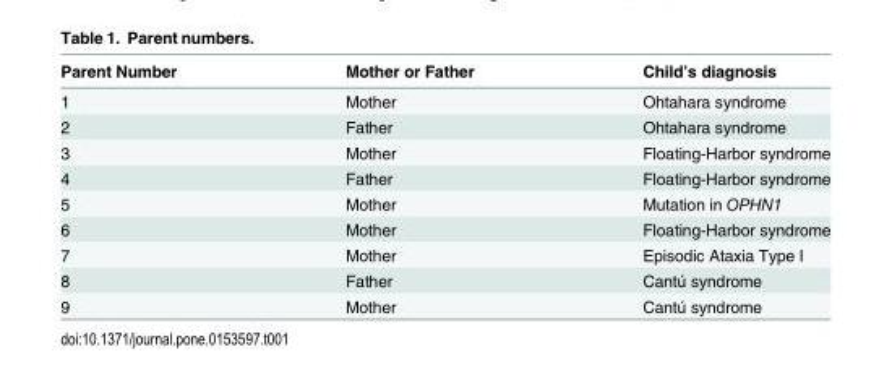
<table><thead><tr><td>Parent Number</td><td>Mother or Father</td><td>Child’s diagnosis</td></tr></thead><tbody><tr><td>1</td><td>Mother</td><td>Ohtahara syndrome</td></tr><tr><td>2</td><td>Father</td><td>Ohtahara syndrome</td></tr><tr><td>3</td><td>Mother</td><td>Floating-Harbor syndrome</td></tr><tr><td>4</td><td>Father</td><td>Floating-Harbor syndrome</td></tr><tr><td>5</td><td>Mother</td><td>Mutation in OPHN1</td></tr><tr><td>6</td><td>Mother</td><td>Floating-Harbor syndrome</td></tr><tr><td>7</td><td>Mother</td><td>Episodic Ataxia Type I</td></tr><tr><td>8</td><td>Father</td><td>Cantú syndrome</td></tr><tr><td>9</td><td>Mother</td><td>Cantú syndrome</td></tr></tbody></table>